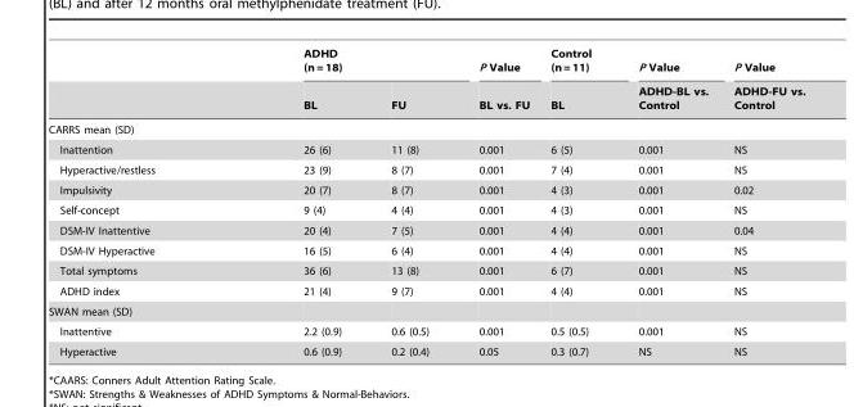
<table><thead><tr><td rowspan="2"></td><td colspan="2">ADHD (n = 18)</td><td rowspan="2">P Value BL vs. FU</td><td rowspan="2">Control (n = 11) BL</td><td rowspan="2">P Value ADHD-BL vs. Control</td><td rowspan="2">P Value ADHD-FU vs. Control</td></tr><tr><td>BL</td><td>FU</td></tr></thead><tbody><tr><td colspan="7">CARRS mean (SD)</td></tr><tr><td>Inattention</td><td>26 (6)</td><td>11 (8)</td><td>0.001</td><td>6 (5)</td><td>0.001</td><td>NS</td></tr><tr><td>Hyperactive/restless</td><td>23 (9)</td><td>8 (7)</td><td>0.001</td><td>7 (4)</td><td>0.001</td><td>NS</td></tr><tr><td>Impulsivity</td><td>20 (7)</td><td>8 (7)</td><td>0.001</td><td>4 (3)</td><td>0.001</td><td>0.02</td></tr><tr><td>Self-concept</td><td>9 (4)</td><td>4 (4)</td><td>0.001</td><td>4 (3)</td><td>0.001</td><td>NS</td></tr><tr><td>DSM-IV Inattentive</td><td>20 (4)</td><td>7 (5)</td><td>0.001</td><td>4 (4)</td><td>0.001</td><td>0.04</td></tr><tr><td>DSM-IV Hyperactive</td><td>16 (5)</td><td>6 (4)</td><td>0.001</td><td>4 (4)</td><td>0.001</td><td>NS</td></tr><tr><td>Total symptoms</td><td>36 (6)</td><td>13 (8)</td><td>0.001</td><td>6 (7)</td><td>0.001</td><td>NS</td></tr><tr><td>ADHD index</td><td>21 (4)</td><td>9 (7)</td><td>0.001</td><td>4 (4)</td><td>0.001</td><td>NS</td></tr><tr><td colspan="7">SWAN mean (SD)</td></tr><tr><td>Inattentive</td><td>2.2 (0.9)</td><td>0.6 (0.5)</td><td>0.001</td><td>0.5 (0.5)</td><td>0.001</td><td>NS</td></tr><tr><td>Hyperactive</td><td>0.6 (0.9)</td><td>0.2 (0.4)</td><td>0.05</td><td>0.3 (0.7)</td><td>NS</td><td>NS</td></tr></tbody></table>